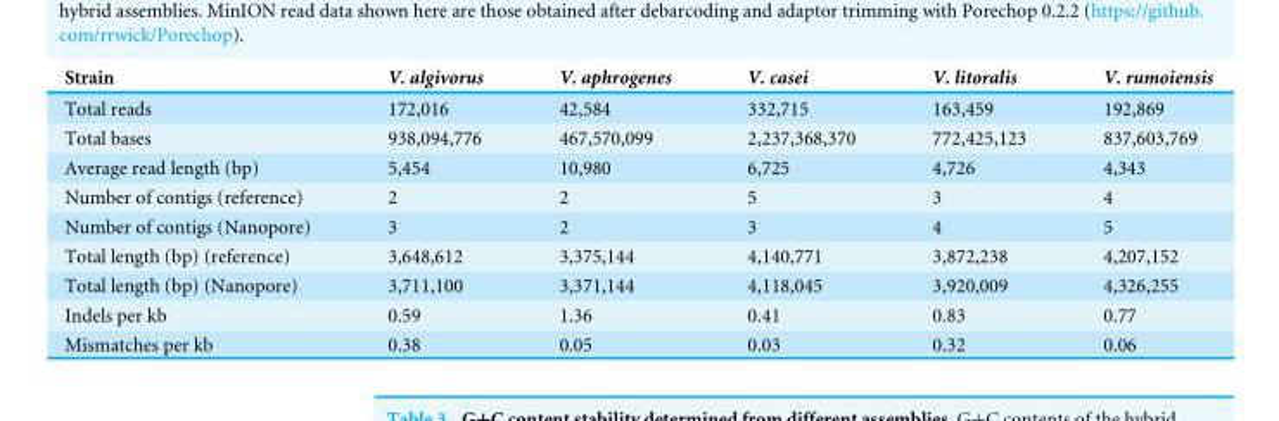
<table><thead><tr><td>Strain</td><td>V. algivorus</td><td>V. aphrogenes</td><td>V. casei</td><td>V. litoralis</td><td>V. rumoiensis</td></tr></thead><tbody><tr><td>Total reads</td><td>172,016</td><td>42,584</td><td>332,715</td><td>163,459</td><td>192,869</td></tr><tr><td>Total bases</td><td>938,094,776</td><td>467,570,099</td><td>2,237,368,370</td><td>772,425,123</td><td>837,603,769</td></tr><tr><td>Average read length (bp)</td><td>5,454</td><td>10,980</td><td>6,725</td><td>4,726</td><td>4,343</td></tr><tr><td>Number of contigs (reference)</td><td>2</td><td>2</td><td>5</td><td>3</td><td>4</td></tr><tr><td>Number of contigs (Nanopore)</td><td>3</td><td>2</td><td>3</td><td>4</td><td>5</td></tr><tr><td>Total length (bp) (reference)</td><td>3,648,612</td><td>3,375,144</td><td>4,140,771</td><td>3,872,238</td><td>4,207,152</td></tr><tr><td>Total length (bp) (Nanopore)</td><td>3,711,100</td><td>3,371,144</td><td>4,118,045</td><td>3,920,009</td><td>4,326,255</td></tr><tr><td>Indels per kb</td><td>0.59</td><td>1.36</td><td>0.41</td><td>0.83</td><td>0.77</td></tr><tr><td>Mismatches per kb</td><td>0.38</td><td>0.05</td><td>0.03</td><td>0.32</td><td>0.06</td></tr></tbody></table>